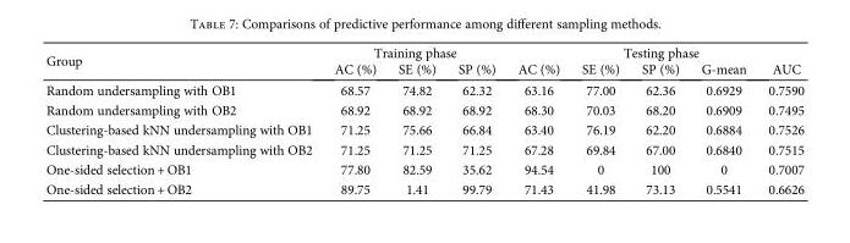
<table><thead><tr><td rowspan="2">Group</td><td colspan="3">Training phase</td><td colspan="5">Testing phase</td></tr><tr><td>AC (%)</td><td>SE (%)</td><td>SP (%)</td><td>AC (%)</td><td>SE (%)</td><td>SP (%)</td><td>G-mean</td><td>AUC</td></tr></thead><tbody><tr><td>Random undersampling with OB1</td><td>68.57</td><td>74.82</td><td>62.32</td><td>63.16</td><td>77.00</td><td>62.36</td><td>0.6929</td><td>0.7590</td></tr><tr><td>Random undersampling with OB2</td><td>68.92</td><td>68.92</td><td>68.92</td><td>68.30</td><td>70.03</td><td>68.20</td><td>0.6909</td><td>0.7495</td></tr><tr><td>Clustering-based kNN undersampling with OB1</td><td>71.25</td><td>75.66</td><td>66.84</td><td>63.40</td><td>76.19</td><td>62.20</td><td>0.6884</td><td>0.7526</td></tr><tr><td>Clustering-based kNN undersampling with OB2</td><td>71.25</td><td>71.25</td><td>71.25</td><td>67.28</td><td>69.84</td><td>67.00</td><td>0.6840</td><td>0.7515</td></tr><tr><td>One-sided selection + OB1</td><td>77.80</td><td>82.59</td><td>35.62</td><td>94.54</td><td>0</td><td>100</td><td>0</td><td>0.7007</td></tr><tr><td>One-sided selection + OB2</td><td>89.75</td><td>1.41</td><td>99.79</td><td>71.43</td><td>41.98</td><td>73.13</td><td>0.5541</td><td>0.6626</td></tr></tbody></table>